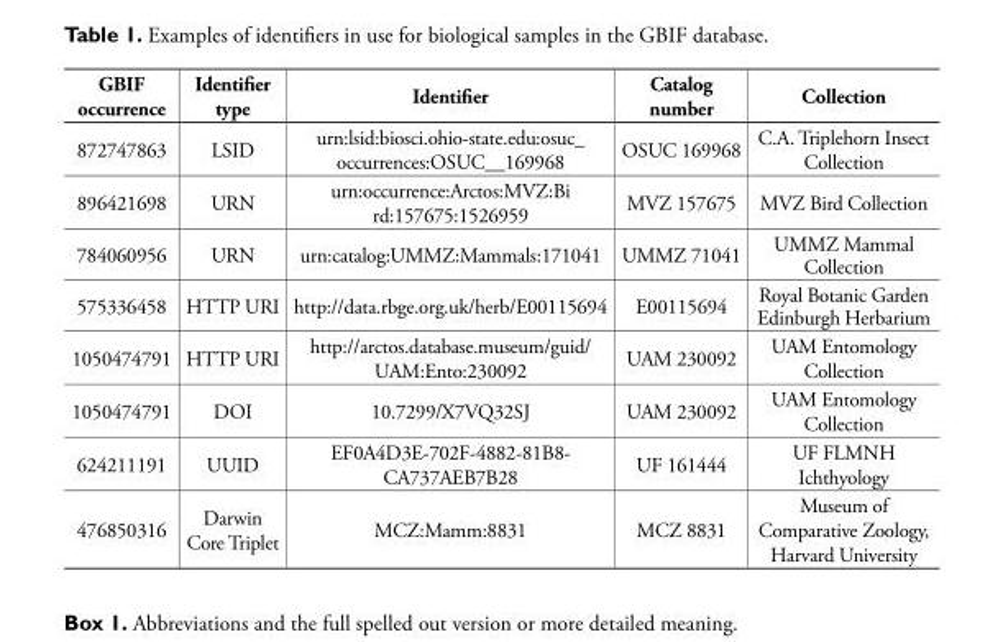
<table><thead><tr><td>GBIF occurrence</td><td>Identifier type</td><td>Identifier</td><td>Catalog number</td><td>Collection</td></tr></thead><tbody><tr><td>872747863</td><td>LSID</td><td>urn:lsid:biosci.ohio-state.edu:osuc_ occurrences:OSUC__169968</td><td>OSUC 169968</td><td>C.A. Triplehorn Insect Collection</td></tr><tr><td>896421698</td><td>URN</td><td>urn:occurrence:Arctos:MVZ:Bi rd:157675:1526959</td><td>MVZ 157675</td><td>MVZ Bird Collection</td></tr><tr><td>784060956</td><td>URN</td><td>urn:catalog:UMMZ:Mammals:171041</td><td>UMMZ 71041</td><td>UMMZ Mammal Collection</td></tr><tr><td>575336458</td><td>HTTP URI</td><td>http://data.rbge.org.uk/herb/E00115694</td><td>E00115694</td><td>Royal Botanic Garden Edinburgh Herbarium</td></tr><tr><td>1050474791</td><td>HTTP URI</td><td>http://arctos.database.museum/guid/ UAM:Ento:230092</td><td>UAM 230092</td><td>UAM Entomology Collection</td></tr><tr><td>1050474791</td><td>DOI</td><td>10.7299/X7VQ32SJ</td><td>UAM 230092</td><td>UAM Entomology Collection</td></tr><tr><td>624211191</td><td>UUID</td><td>EF0A4D3E-702F-4882-81B8- CA737AEB7B28</td><td>UF 161444</td><td>UF FLMNH Ichthyology</td></tr><tr><td>476850316</td><td>Darwin Core Triplet</td><td>MCZ:Mamm:8831</td><td>MCZ 8831</td><td>Museum of Comparative Zoology, Harvard University</td></tr></tbody></table>